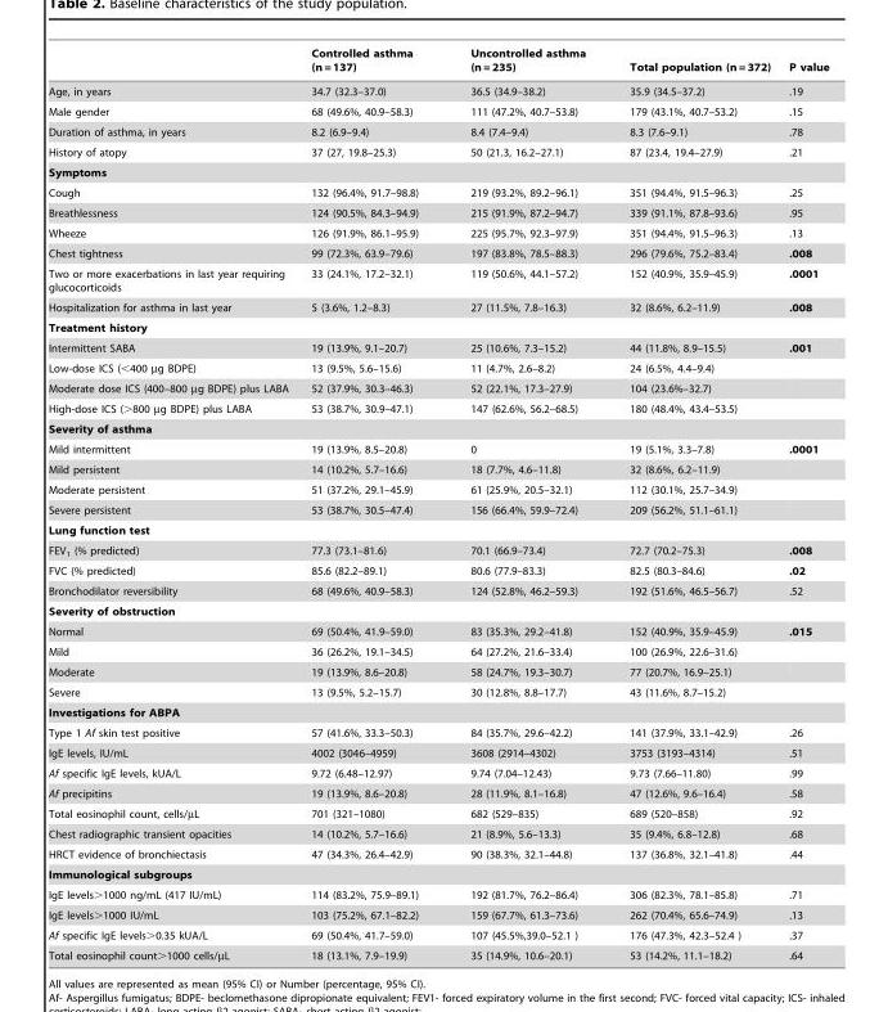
<table><thead><tr><td></td><td>Controlled asthma (n = 137)</td><td>Uncontrolled asthma (n = 235)</td><td>Total population (n = 372)</td><td>P value</td></tr></thead><tbody><tr><td>Age, in years</td><td>34.7 (32.3–37.0)</td><td>36.5 (34.9–38.2)</td><td>35.9 (34.5–37.2)</td><td>.19</td></tr><tr><td>Male gender</td><td>68 (49.6%, 40.9–58.3)</td><td>111 (47.2%, 40.7–53.8)</td><td>179 (43.1%, 40.7–53.2)</td><td>.15</td></tr><tr><td>Duration of asthma, in years</td><td>8.2 (6.9–9.4)</td><td>8.4 (7.4–9.4)</td><td>8.3 (7.6–9.1)</td><td>.78</td></tr><tr><td>History of atopy</td><td>37 (27, 19.8–25.3)</td><td>50 (21.3, 16.2–27.1)</td><td>87 (23.4, 19.4–27.9)</td><td>.21</td></tr><tr><td colspan="5">Symptoms</td></tr><tr><td>Cough</td><td>132 (96.4%, 91.7–98.8)</td><td>219 (93.2%, 89.2–96.1)</td><td>351 (94.4%, 91.5–96.3)</td><td>.25</td></tr><tr><td>Breathlessness</td><td>124 (90.5%, 84.3–94.9)</td><td>215 (91.9%, 87.2–94.7)</td><td>339 (91.1%, 87.8–93.6)</td><td>.95</td></tr><tr><td>Wheeze</td><td>126 (91.9%, 86.1–95.9)</td><td>225 (95.7%, 92.3–97.9)</td><td>351 (94.4%, 91.5–96.3)</td><td>.13</td></tr><tr><td>Chest tightness</td><td>99 (72.3%, 63.9–79.6)</td><td>197 (83.8%, 78.5–88.3)</td><td>296 (79.6%, 75.2–83.4)</td><td>.008</td></tr><tr><td>Two or more exacerbations in last year requiring glucocorticoids</td><td>33 (24.1%, 17.2–32.1)</td><td>119 (50.6%, 44.1–57.2)</td><td>152 (40.9%, 35.9–45.9)</td><td>.0001</td></tr><tr><td>Hospitalization for asthma in last year</td><td>5 (3.6%, 1.2–8.3)</td><td>27 (11.5%, 7.8–16.3)</td><td>32 (8.6%, 6.2–11.9)</td><td>.008</td></tr><tr><td colspan="5">Treatment history</td></tr><tr><td>Intermittent SABA</td><td>19 (13.9%, 9.1–20.7)</td><td>25 (10.6%, 7.3–15.2)</td><td>44 (11.8%, 8.9–15.5)</td><td>.001</td></tr><tr><td>Low-dose ICS (&lt;400 µg BDPE)</td><td>13 (9.5%, 5.6–15.6)</td><td>11 (4.7%, 2.6–8.2)</td><td>24 (6.5%, 4.4–9.4)</td><td></td></tr><tr><td>Moderate dose ICS (400–800 µg BDPE) plus LABA</td><td>52 (37.9%, 30.3–46.3)</td><td>52 (22.1%, 17.3–27.9)</td><td>104 (23.6%–32.7)</td><td></td></tr><tr><td>High-dose ICS (&gt;800 µg BDPE) plus LABA</td><td>53 (38.7%, 30.9–47.1)</td><td>147 (62.6%, 56.2–68.5)</td><td>180 (48.4%, 43.4–53.5)</td><td></td></tr><tr><td colspan="5">Severity of asthma</td></tr><tr><td>Mild intermittent</td><td>19 (13.9%, 8.5–20.8)</td><td>0</td><td>19 (5.1%, 3.3–7.8)</td><td>.0001</td></tr><tr><td>Mild persistent</td><td>14 (10.2%, 5.7–16.6)</td><td>18 (7.7%, 4.6–11.8)</td><td>32 (8.6%, 6.2–11.9)</td><td></td></tr><tr><td>Moderate persistent</td><td>51 (37.2%, 29.1–45.9)</td><td>61 (25.9%, 20.5–32.1)</td><td>112 (30.1%, 25.7–34.9)</td><td></td></tr><tr><td>Severe persistent</td><td>53 (38.7%, 30.5–47.4)</td><td>156 (66.4%, 59.9–72.4)</td><td>209 (56.2%, 51.1–61.1)</td><td></td></tr><tr><td colspan="5">Lung function test</td></tr><tr><td>FEV<sub>1</sub> (% predicted)</td><td>77.3 (73.1–81.6)</td><td>70.1 (66.9–73.4)</td><td>72.7 (70.2–75.3)</td><td>.008</td></tr><tr><td>FVC (% predicted)</td><td>85.6 (82.2–89.1)</td><td>80.6 (77.9–83.3)</td><td>82.5 (80.3–84.6)</td><td>.02</td></tr><tr><td>Bronchodilator reversibility</td><td>68 (49.6%, 40.9–58.3)</td><td>124 (52.8%, 46.2–59.3)</td><td>192 (51.6%, 46.5–56.7)</td><td>.52</td></tr><tr><td colspan="5">Severity of obstruction</td></tr><tr><td>Normal</td><td>69 (50.4%, 41.9–59.0)</td><td>83 (35.3%, 29.2–41.8)</td><td>152 (40.9%, 35.9–45.9)</td><td>.015</td></tr><tr><td>Mild</td><td>36 (26.2%, 19.1–34.5)</td><td>64 (27.2%, 21.6–33.4)</td><td>100 (26.9%, 22.6–31.6)</td><td></td></tr><tr><td>Moderate</td><td>19 (13.9%, 8.6–20.8)</td><td>58 (24.7%, 19.3–30.7)</td><td>77 (20.7%, 16.9–25.1)</td><td></td></tr><tr><td>Severe</td><td>13 (9.5%, 5.2–15.7)</td><td>30 (12.8%, 8.8–17.7)</td><td>43 (11.6%, 8.7–15.2)</td><td></td></tr><tr><td colspan="5">Investigations for ABPA</td></tr><tr><td>Type 1 Af skin test positive</td><td>57 (41.6%, 33.3–50.3)</td><td>84 (35.7%, 29.6–42.2)</td><td>141 (37.9%, 33.1–42.9)</td><td>.26</td></tr><tr><td>IgE levels, IU/mL</td><td>4002 (3046–4959)</td><td>3608 (2914–4302)</td><td>3753 (3193–4314)</td><td>.51</td></tr><tr><td>Af specific IgE levels, kUA/L</td><td>9.72 (6.48–12.97)</td><td>9.74 (7.04–12.43)</td><td>9.73 (7.66–11.80)</td><td>.99</td></tr><tr><td>Af precipitins</td><td>19 (13.9%, 8.6–20.8)</td><td>28 (11.9%, 8.1–16.8)</td><td>47 (12.6%, 9.6–16.4)</td><td>.58</td></tr><tr><td>Total eosinophil count, cells/µL</td><td>701 (321–1080)</td><td>682 (529–835)</td><td>689 (520–858)</td><td>.92</td></tr><tr><td>Chest radiographic transient opacities</td><td>14 (10.2%, 5.7–16.6)</td><td>21 (8.9%, 5.6–13.3)</td><td>35 (9.4%, 6.8–12.8)</td><td>.68</td></tr><tr><td>HRCT evidence of bronchiectasis</td><td>47 (34.3%, 26.4–42.9)</td><td>90 (38.3%, 32.1–44.8)</td><td>137 (36.8%, 32.1–41.8)</td><td>.44</td></tr><tr><td colspan="5">Immunological subgroups</td></tr><tr><td>IgE levels&gt;1000 ng/mL (417 IU/mL)</td><td>114 (83.2%, 75.9–89.1)</td><td>192 (81.7%, 76.2–86.4)</td><td>306 (82.3%, 78.1–85.8)</td><td>.71</td></tr><tr><td>IgE levels&gt;1000 IU/mL</td><td>103 (75.2%, 67.1–82.2)</td><td>159 (67.7%, 61.3–73.6)</td><td>262 (70.4%, 65.6–74.9)</td><td>.13</td></tr><tr><td>Af specific IgE levels&gt;0.35 kUA/L</td><td>69 (50.4%, 41.7–59.0)</td><td>107 (45.5%,39.0–52.1 )</td><td>176 (47.3%, 42.3–52.4 )</td><td>.37</td></tr><tr><td>Total eosinophil count&gt;1000 cells/µL</td><td>18 (13.1%, 7.9–19.9)</td><td>35 (14.9%, 10.6–20.1)</td><td>53 (14.2%, 11.1–18.2)</td><td>.64</td></tr></tbody></table>